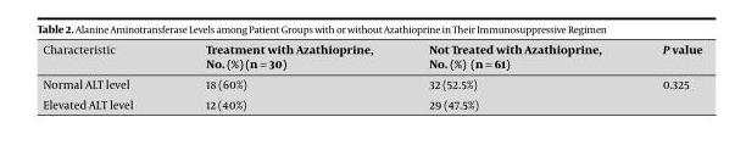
<table><thead><tr><td>Characteristic</td><td>Treatment with Azathioprine, No. (%) (n = 30)</td><td>Not Treated with Azathioprine, No. (%) (n = 61)</td><td>P value</td></tr></thead><tbody><tr><td>Normal ALT level</td><td>18 (60%)</td><td>32 (52.5%)</td><td rowspan="2">0.325</td></tr><tr><td>Elevated ALT level</td><td>12 (40%)</td><td>29 (47.5%)</td></tr></tbody></table>